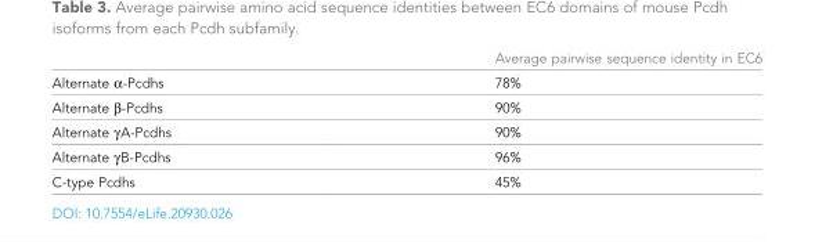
<table><thead><tr><td></td><td>Average pairwise sequence identity in EC6</td></tr></thead><tbody><tr><td>Alternate α-Pcdhs</td><td>78%</td></tr><tr><td>Alternate β-Pcdhs</td><td>90%</td></tr><tr><td>Alternate γA-Pcdhs</td><td>90%</td></tr><tr><td>Alternate γB-Pcdhs</td><td>96%</td></tr><tr><td>C-type Pcdhs</td><td>45%</td></tr></tbody></table>